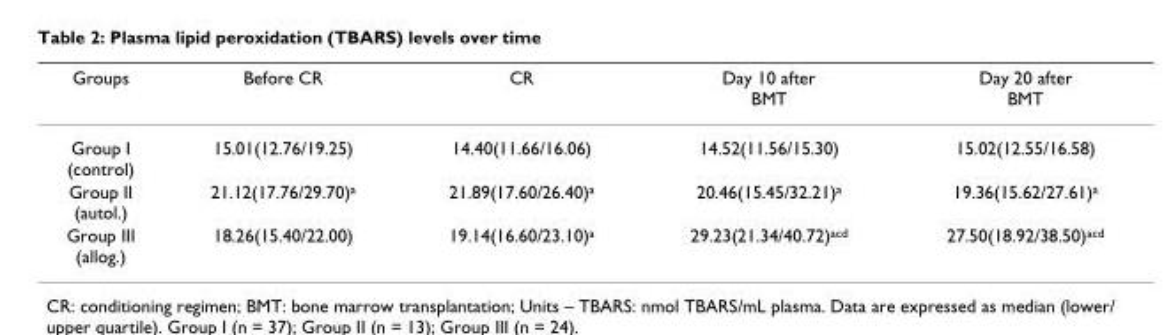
<table><thead><tr><td>Groups</td><td>Before CR</td><td>CR</td><td>Day 10 after BMT</td><td>Day 20 after BMT</td></tr></thead><tbody><tr><td>Group I (control)</td><td>15.01(12.76/19.25)</td><td>14.40(11.66/16.06)</td><td>14.52(11.56/15.30)</td><td>15.02(12.55/16.58)</td></tr><tr><td>Group II (autol.)</td><td>21.12(17.76/29.70)<sup>a</sup></td><td>21.89(17.60/26.40)<sup>a</sup></td><td>20.46(15.45/32.21)<sup>a</sup></td><td>19.36(15.62/27.61)<sup>a</sup></td></tr><tr><td>Group III (allog.)</td><td>18.26(15.40/22.00)</td><td>19.14(16.60/23.10)<sup>a</sup></td><td>29.23(21.34/40.72)<sup>acd</sup></td><td>27.50(18.92/38.50)<sup>acd</sup></td></tr></tbody></table>